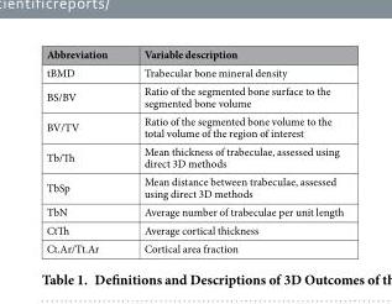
<table><thead><tr><td>Abbreviation</td><td>Variable description</td></tr></thead><tbody><tr><td>tBMD</td><td>Trabecular bone mineral density</td></tr><tr><td>BS/BV</td><td>Ratio of the segmented bone surface to the segmented bone volume</td></tr><tr><td>BV/TV</td><td>Ratio of the segmented bone volume to the total volume of the region of interest</td></tr><tr><td>Tb/Th</td><td>Mean thickness of trabeculae, assessed using direct 3D methods</td></tr><tr><td>TbSp</td><td>Mean distance between trabeculae, assessed using direct 3D methods</td></tr><tr><td>TbN</td><td>Average number of trabeculae per unit length</td></tr><tr><td>CtTh</td><td>Average cortical thickness</td></tr><tr><td>Ct.Ar/Tt.Ar</td><td>Cortical area fraction</td></tr></tbody></table>